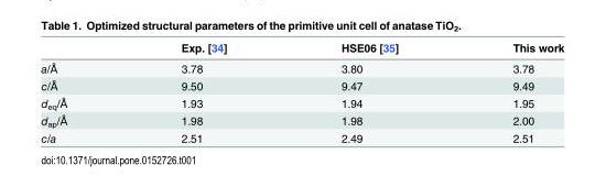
<table><thead><tr><td></td><td>Exp. [34]</td><td>HSE06 [35]</td><td>This work</td></tr></thead><tbody><tr><td>a/Å</td><td>3.78</td><td>3.80</td><td>3.78</td></tr><tr><td>c/Å</td><td>9.50</td><td>9.47</td><td>9.49</td></tr><tr><td>d<sub>eq</sub>/Å</td><td>1.93</td><td>1.94</td><td>1.95</td></tr><tr><td>d<sub>ap</sub>/Å</td><td>1.98</td><td>1.98</td><td>2.00</td></tr><tr><td>c/a</td><td>2.51</td><td>2.49</td><td>2.51</td></tr></tbody></table>